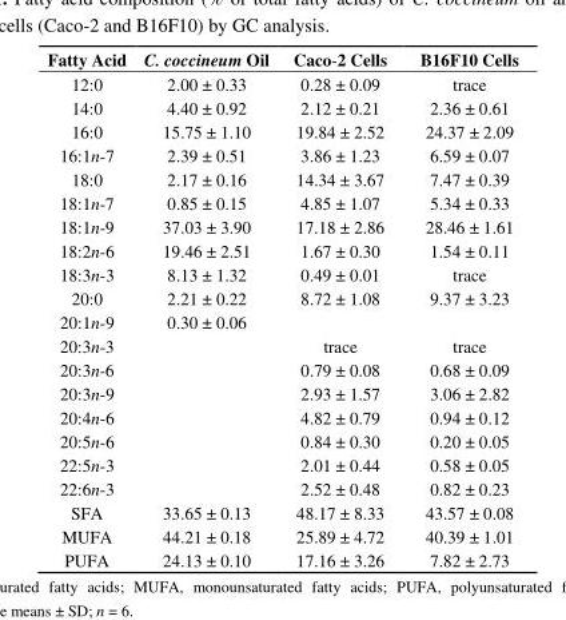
<table><thead><tr><td>Fatty Acid</td><td>C. coccineum Oil</td><td>Caco-2 Cells</td><td>B16F10 Cells</td></tr></thead><tbody><tr><td>12:0</td><td>2.00 ± 0.33</td><td>0.28 ± 0.09</td><td>trace</td></tr><tr><td>14:0</td><td>4.40 ± 0.92</td><td>2.12 ± 0.21</td><td>2.36 ± 0.61</td></tr><tr><td>16:0</td><td>15.75 ± 1.10</td><td>19.84 ± 2.52</td><td>24.37 ± 2.09</td></tr><tr><td>16:1n-7</td><td>2.39 ± 0.51</td><td>3.86 ± 1.23</td><td>6.59 ± 0.07</td></tr><tr><td>18:0</td><td>2.17 ± 0.16</td><td>14.34 ± 3.67</td><td>7.47 ± 0.39</td></tr><tr><td>18:1n-7</td><td>0.85 ± 0.15</td><td>4.85 ± 1.07</td><td>5.34 ± 0.33</td></tr><tr><td>18:1n-9</td><td>37.03 ± 3.90</td><td>17.18 ± 2.86</td><td>28.46 ± 1.61</td></tr><tr><td>18:2n-6</td><td>19.46 ± 2.51</td><td>1.67 ± 0.30</td><td>1.54 ± 0.11</td></tr><tr><td>18:3n-3</td><td>8.13 ± 1.32</td><td>0.49 ± 0.01</td><td>trace</td></tr><tr><td>20:0</td><td>2.21 ± 0.22</td><td>8.72 ± 1.08</td><td>9.37 ± 3.23</td></tr><tr><td>20:1n-9</td><td>0.30 ± 0.06</td><td></td><td></td></tr><tr><td>20:3n-3</td><td></td><td>trace</td><td>trace</td></tr><tr><td>20:3n-6</td><td></td><td>0.79 ± 0.08</td><td>0.68 ± 0.09</td></tr><tr><td>20:3n-9</td><td></td><td>2.93 ± 1.57</td><td>3.06 ± 2.82</td></tr><tr><td>20:4n-6</td><td></td><td>4.82 ± 0.79</td><td>0.94 ± 0.12</td></tr><tr><td>20:5n-6</td><td></td><td>0.84 ± 0.30</td><td>0.20 ± 0.05</td></tr><tr><td>22:5n-3</td><td></td><td>2.01 ± 0.44</td><td>0.58 ± 0.05</td></tr><tr><td>22:6n-3</td><td></td><td>2.52 ± 0.48</td><td>0.82 ± 0.23</td></tr><tr><td>SFA</td><td>33.65 ± 0.13</td><td>48.17 ± 8.33</td><td>43.57 ± 0.08</td></tr><tr><td>MUFA</td><td>44.21 ± 0.18</td><td>25.89 ± 4.72</td><td>40.39 ± 1.01</td></tr><tr><td>PUFA</td><td>24.13 ± 0.10</td><td>17.16 ± 3.26</td><td>7.82 ± 2.73</td></tr></tbody></table>